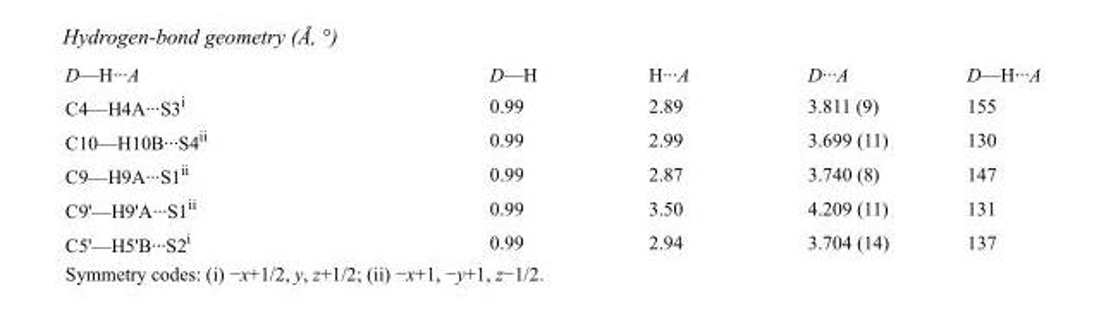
<table><tbody><tr><td>D—H···A</td><td>D—H</td><td>H···A</td><td>D···A</td><td>D—H···A</td></tr><tr><td>C4—H4A···S3<sup>i</sup></td><td>0.99</td><td>2.89</td><td>3.811 (9)</td><td>155</td></tr><tr><td>C10—H10B···S4<sup>ii</sup></td><td>0.99</td><td>2.99</td><td>3.699 (11)</td><td>130</td></tr><tr><td>C9—H9A···S1<sup>ii</sup></td><td>0.99</td><td>2.87</td><td>3.740 (8)</td><td>147</td></tr><tr><td>C9&#x27;—H9&#x27;A···S1<sup>ii</sup></td><td>0.99</td><td>3.50</td><td>4.209 (11)</td><td>131</td></tr><tr><td>C5&#x27;—H5&#x27;B···S2<sup>i</sup></td><td>0.99</td><td>2.94</td><td>3.704 (14)</td><td>137</td></tr></tbody></table>